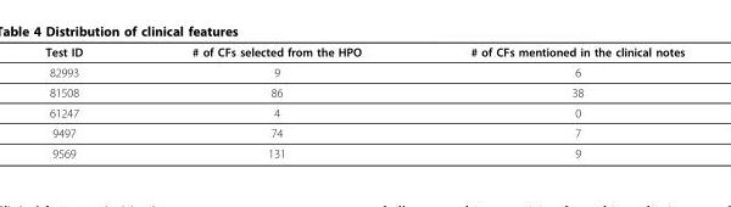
<table><thead><tr><td>Test ID</td><td># of CFs selected from the HPO</td><td># of CFs mentioned in the clinical notes</td></tr></thead><tbody><tr><td>82993</td><td>9</td><td>6</td></tr><tr><td>81508</td><td>86</td><td>38</td></tr><tr><td>61247</td><td>4</td><td>0</td></tr><tr><td>9497</td><td>74</td><td>7</td></tr><tr><td>9569</td><td>131</td><td>9</td></tr></tbody></table>